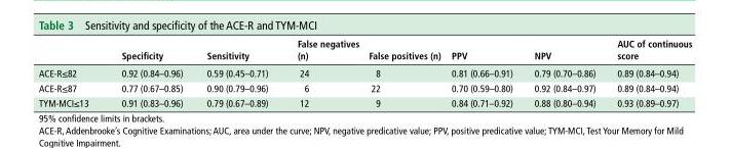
<table><thead><tr><td></td><td>specificity</td><td>sensitivity</td><td>False negatives (n)</td><td>False positives (n)</td><td>PPV</td><td>nPV</td><td>Auc of continuous score</td></tr></thead><tbody><tr><td>ACE-R≤82</td><td>0.92 (0.84–0.96)</td><td>0.59 (0.45–0.71)</td><td>24</td><td>8</td><td>0.81 (0.66–0.91)</td><td>0.79 (0.70–0.86)</td><td>0.89 (0.84–0.94)</td></tr><tr><td>ACE-R≤87</td><td>0.77 (0.67–0.85)</td><td>0.90 (0.79–0.96)</td><td>6</td><td>22</td><td>0.70 (0.59–0.80)</td><td>0.92 (0.84–0.97)</td><td>0.89 (0.84–0.94)</td></tr><tr><td>TYM-MCI≤13</td><td>0.91 (0.83–0.96)</td><td>0.79 (0.67–0.89)</td><td>12</td><td>9</td><td>0.84 (0.71–0.92)</td><td>0.88 (0.80–0.94)</td><td>0.93 (0.89–0.97)</td></tr></tbody></table>